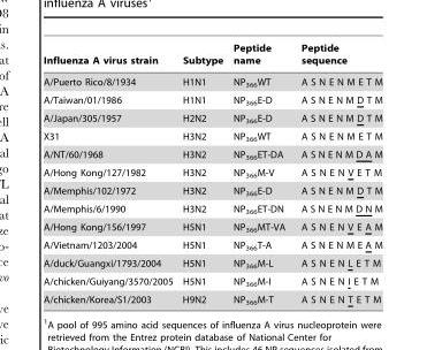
<table><thead><tr><td>Influenza A virus strain</td><td>Subtype</td><td>Peptide name</td><td>Peptide sequence</td></tr></thead><tbody><tr><td>A/Puerto Rico/8/1934</td><td>H1N1</td><td>NP<sub>366</sub>WT</td><td>A S N E N M E T M</td></tr><tr><td>A/Taiwan/01/1986</td><td>H1N1</td><td>NP<sub>366</sub>E-D</td><td>A S N E N M D T M</td></tr><tr><td>A/Japan/305/1957</td><td>H2N2</td><td>NP<sub>366</sub>E-D</td><td>A S N E N M D T M</td></tr><tr><td>X31</td><td>H3N2</td><td>NP<sub>366</sub>WT</td><td>A S N E N M E T M</td></tr><tr><td>A/NT/60/1968</td><td>H3N2</td><td>NP<sub>366</sub>ET-DA</td><td>A S N E N M D A M</td></tr><tr><td>A/Hong Kong/127/1982</td><td>H3N2</td><td>NP<sub>366</sub>M-V</td><td>A S N E N V E T M</td></tr><tr><td>A/Memphis/102/1972</td><td>H3N2</td><td>NP<sub>366</sub>E-D</td><td>A S N E N M D T M</td></tr><tr><td>A/Memphis/6/1990</td><td>H3N2</td><td>NP<sub>366</sub>ET-DN</td><td>A S N E N M D N M</td></tr><tr><td>A/Hong Kong/156/1997</td><td>H5N1</td><td>NP<sub>366</sub>MT-VA</td><td>A S N E N V E A M</td></tr><tr><td>A/Vietnam/1203/2004</td><td>H5N1</td><td>NP<sub>366</sub>T-A</td><td>A S N E N M E A M</td></tr><tr><td>A/duck/Guangxi/1793/2004</td><td>H5N1</td><td>NP<sub>366</sub>M-L</td><td>A S N E N L E T M</td></tr><tr><td>A/chicken/Guiyang/3570/2005</td><td>H5N1</td><td>NP<sub>366</sub>M-I</td><td>A S N E N I E T M</td></tr><tr><td>A/chicken/Korea/S1/2003</td><td>H9N2</td><td>NP<sub>366</sub>M-T</td><td>A S N E N T E T M</td></tr></tbody></table>